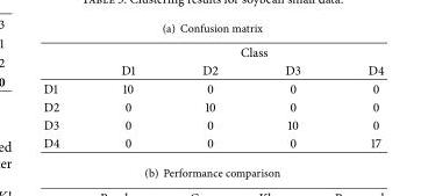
<table><thead><tr><td rowspan="2"></td><td colspan="4">Class</td></tr><tr><td>D1</td><td>D2</td><td>D3</td><td>D4</td></tr></thead><tbody><tr><td>D1</td><td>10</td><td>0</td><td>0</td><td>0</td></tr><tr><td>D2</td><td>0</td><td>10</td><td>0</td><td>0</td></tr><tr><td>D3</td><td>0</td><td>0</td><td>10</td><td>0</td></tr><tr><td>D4</td><td>0</td><td>0</td><td>0</td><td>17</td></tr></tbody></table>